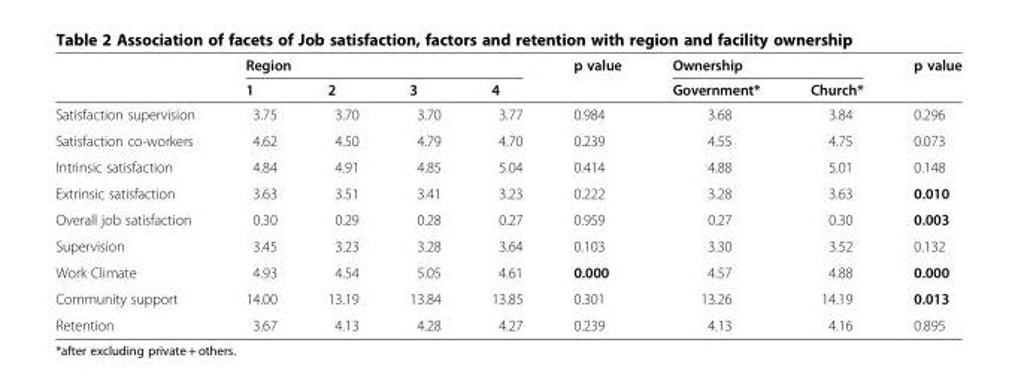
<table><thead><tr><td rowspan="2"></td><td colspan="4">Region</td><td rowspan="2">p value</td><td colspan="2">Ownership</td><td rowspan="2">p value</td></tr><tr><td>1</td><td>2</td><td>3</td><td>4</td><td>Government*</td><td>Church*</td></tr></thead><tbody><tr><td>Satisfaction supervision</td><td>3.75</td><td>3.70</td><td>3.70</td><td>3.77</td><td>0.984</td><td>3.68</td><td>3.84</td><td>0.296</td></tr><tr><td>Satisfaction co-workers</td><td>4.62</td><td>4.50</td><td>4.79</td><td>4.70</td><td>0.239</td><td>4.55</td><td>4.75</td><td>0.073</td></tr><tr><td>Intrinsic satisfaction</td><td>4.84</td><td>4.91</td><td>4.85</td><td>5.04</td><td>0.414</td><td>4.88</td><td>5.01</td><td>0.148</td></tr><tr><td>Extrinsic satisfaction</td><td>3.63</td><td>3.51</td><td>3.41</td><td>3.23</td><td>0.222</td><td>3.28</td><td>3.63</td><td>0.010</td></tr><tr><td>Overall job satisfaction</td><td>0.30</td><td>0.29</td><td>0.28</td><td>0.27</td><td>0.959</td><td>0.27</td><td>0.30</td><td>0.003</td></tr><tr><td>Supervision</td><td>3.45</td><td>3.23</td><td>3.28</td><td>3.64</td><td>0.103</td><td>3.30</td><td>3.52</td><td>0.132</td></tr><tr><td>Work Climate</td><td>4.93</td><td>4.54</td><td>5.05</td><td>4.61</td><td>0.000</td><td>4.57</td><td>4.88</td><td>0.000</td></tr><tr><td>Community support</td><td>14.00</td><td>13.19</td><td>13.84</td><td>13.85</td><td>0.301</td><td>13.26</td><td>14.19</td><td>0.013</td></tr><tr><td>Retention</td><td>3.67</td><td>4.13</td><td>4.28</td><td>4.27</td><td>0.239</td><td>4.13</td><td>4.16</td><td>0.895</td></tr></tbody></table>